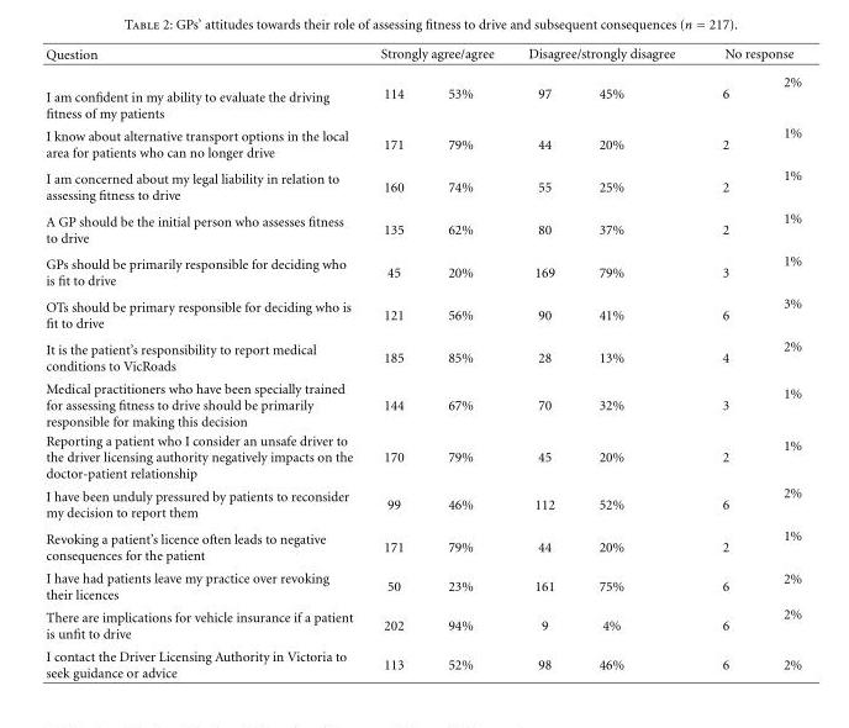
<table><thead><tr><td rowspan="2">Question I am confident in my ability to evaluate the driving fitness of my patients</td><td colspan="2">Strongly agree/agree</td><td colspan="2">Disagree/strongly disagree</td><td colspan="2">No response</td></tr><tr><td>114</td><td>53%</td><td>97</td><td>45%</td><td>6</td><td>2%</td></tr></thead><tbody><tr><td>I know about alternative transport options in the local area for patients who can no longer drive</td><td>171</td><td>79%</td><td>44</td><td>20%</td><td>2</td><td>1%</td></tr><tr><td>I am concerned about my legal liability in relation to assessing fitness to drive</td><td>160</td><td>74%</td><td>55</td><td>25%</td><td>2</td><td>1%</td></tr><tr><td>A GP should be the initial person who assesses fitness to drive</td><td>135</td><td>62%</td><td>80</td><td>37%</td><td>2</td><td>1%</td></tr><tr><td>GPs should be primarily responsible for deciding who is fit to drive</td><td>45</td><td>20%</td><td>169</td><td>79%</td><td>3</td><td>1%</td></tr><tr><td>OTs should be primary responsible for deciding who is fit to drive</td><td>121</td><td>56%</td><td>90</td><td>41%</td><td>6</td><td>3%</td></tr><tr><td>It is the patient’s responsibility to report medical conditions to VicRoads</td><td>185</td><td>85%</td><td>28</td><td>13%</td><td>4</td><td>2%</td></tr><tr><td>Medical practitioners who have been specially trained for assessing fitness to drive should be primarily responsible for making this decision</td><td>144</td><td>67%</td><td>70</td><td>32%</td><td>3</td><td>1%</td></tr><tr><td>Reporting a patient who I consider an unsafe driver to the driver licensing authority negatively impacts on the doctor-patient relationship</td><td>170</td><td>79%</td><td>45</td><td>20%</td><td>2</td><td>1%</td></tr><tr><td>I have been unduly pressured by patients to reconsider my decision to report them</td><td>99</td><td>46%</td><td>112</td><td>52%</td><td>6</td><td>2%</td></tr><tr><td>Revoking a patient’s licence often leads to negative consequences for the patient</td><td>171</td><td>79%</td><td>44</td><td>20%</td><td>2</td><td>1%</td></tr><tr><td>I have had patients leave my practice over revoking their licences</td><td>50</td><td>23%</td><td>161</td><td>75%</td><td>6</td><td>2%</td></tr><tr><td>There are implications for vehicle insurance if a patient is unfit to drive</td><td>202</td><td>94%</td><td>9</td><td>4%</td><td>6</td><td>2%</td></tr><tr><td>I contact the Driver Licensing Authority in Victoria to seek guidance or advice</td><td>113</td><td>52%</td><td>98</td><td>46%</td><td>6</td><td>2%</td></tr></tbody></table>